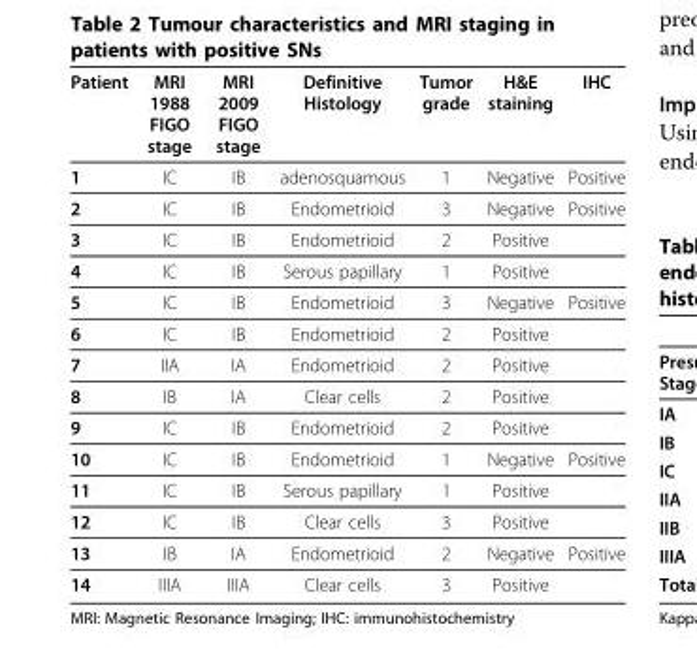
<table><thead><tr><td>Patient</td><td>MRI 1988 FIGO stage</td><td>MRI 2009 FIGO stage</td><td>Definitive Histology</td><td>Tumor grade</td><td>H&amp;E staining</td><td>IHC</td></tr></thead><tbody><tr><td>1</td><td>IC</td><td>IB</td><td>adenosquamous</td><td>1</td><td>Negative</td><td>Positive</td></tr><tr><td>2</td><td>IC</td><td>IB</td><td>Endometrioid</td><td>3</td><td>Negative</td><td>Positive</td></tr><tr><td>3</td><td>IC</td><td>IB</td><td>Endometrioid</td><td>2</td><td>Positive</td><td></td></tr><tr><td>4</td><td>IC</td><td>IB</td><td>Serous papillary</td><td>1</td><td>Positive</td><td></td></tr><tr><td>5</td><td>IC</td><td>IB</td><td>Endometrioid</td><td>3</td><td>Negative</td><td>Positive</td></tr><tr><td>6</td><td>IC</td><td>IB</td><td>Endometrioid</td><td>2</td><td>Positive</td><td></td></tr><tr><td>7</td><td>IIA</td><td>IA</td><td>Endometrioid</td><td>2</td><td>Positive</td><td></td></tr><tr><td>8</td><td>IB</td><td>IA</td><td>Clear cells</td><td>2</td><td>Positive</td><td></td></tr><tr><td>9</td><td>IC</td><td>IB</td><td>Endometrioid</td><td>2</td><td>Positive</td><td></td></tr><tr><td>10</td><td>IC</td><td>IB</td><td>Endometrioid</td><td>1</td><td>Negative</td><td>Positive</td></tr><tr><td>11</td><td>IC</td><td>IB</td><td>Serous papillary</td><td>1</td><td>Positive</td><td></td></tr><tr><td>12</td><td>IC</td><td>IB</td><td>Clear cells</td><td>3</td><td>Positive</td><td></td></tr><tr><td>13</td><td>IB</td><td>IA</td><td>Endometrioid</td><td>2</td><td>Negative</td><td>Positive</td></tr><tr><td>14</td><td>IIIA</td><td>IIIA</td><td>Clear cells</td><td>3</td><td>Positive</td><td></td></tr></tbody></table>